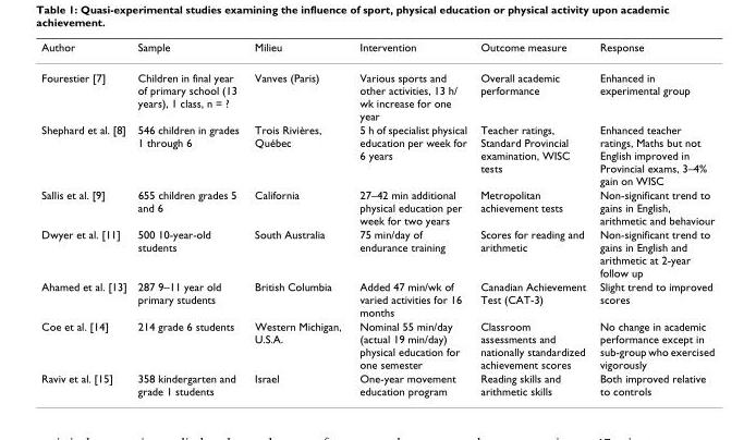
<table><thead><tr><td>Author</td><td>Sample</td><td>Milieu</td><td>Intervention</td><td>Outcome measure</td><td>Response</td></tr></thead><tbody><tr><td>Fourestier [7]</td><td>Children in final year of primary school (13 years), 1 class, n = ?</td><td>Vanves (Paris)</td><td>Various sports and other activities, 13 h/ wk increase for one year</td><td>Overall academic performance</td><td>Enhanced in experimental group</td></tr><tr><td>Shephard et al. [8]</td><td>546 children in grades 1 through 6</td><td>Trois Rivières, Québec</td><td>5 h of specialist physical education per week for 6 years</td><td>Teacher ratings, Standard Provincial examination, WISC tests</td><td>Enhanced teacher ratings, Maths but not English improved in Provincial exams, 3–4% gain on WISC</td></tr><tr><td>Sallis et al. [9]</td><td>655 children grades 5 and 6</td><td>California</td><td>27–42 min additional physical education per week for two years</td><td>Metropolitan achievement tests</td><td>Non-significant trend to gains in English, arithmetic and behaviour</td></tr><tr><td>Dwyer et al. [11]</td><td>500 10-year-old students</td><td>South Australia</td><td>75 min/day of endurance training</td><td>Scores for reading and arithmetic</td><td>Non-significant trend to gains in English and arithmetic at 2-year follow up</td></tr><tr><td>Ahamed et al. [13]</td><td>287 9–11 year old primary students</td><td>British Columbia</td><td>Added 47 min/wk of varied activities for 16 months</td><td>Canadian Achievement Test (CAT-3)</td><td>Slight trend to improved scores</td></tr><tr><td>Coe et al. [14]</td><td>214 grade 6 students</td><td>Western Michigan, U.S.A.</td><td>Nominal 55 min/day (actual 19 min/day) physical education for one semester</td><td>Classroom assessments and nationally standardized achievement scores</td><td>No change in academic performance except in sub-group who exercised vigorously</td></tr><tr><td>Raviv et al. [15]</td><td>358 kindergarten and grade 1 students</td><td>Israel</td><td>One-year movement education program</td><td>Reading skills and arithmetic skills</td><td>Both improved relative to controls</td></tr></tbody></table>